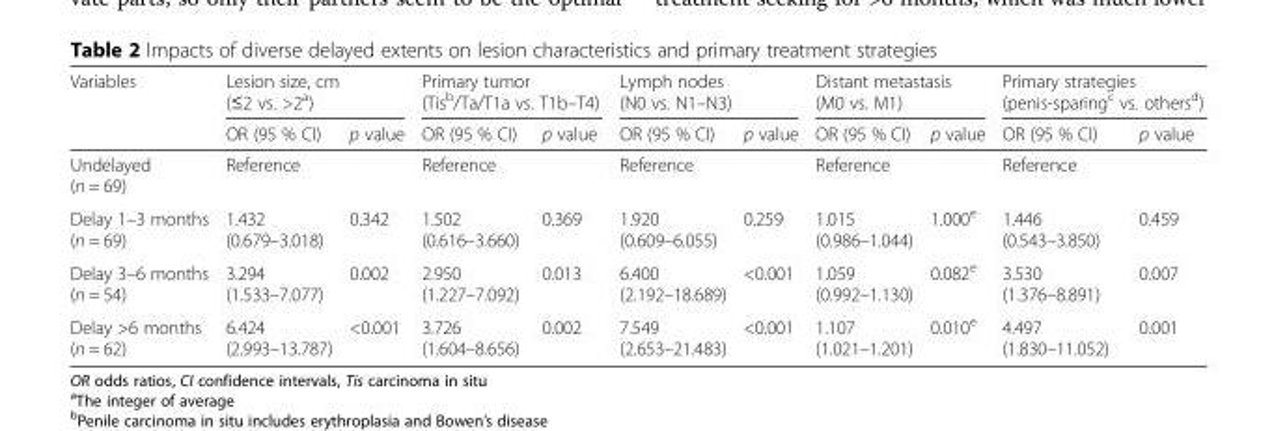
<table><thead><tr><td rowspan="2">Variables</td><td colspan="2">Lesion size, cm (≤2 vs. &gt;2<sup>a</sup>)</td><td colspan="2">Primary tumor (Tis<sup>b</sup>/Ta/T1a vs. T1b–T4)</td><td colspan="2">Lymph nodes (N0 vs. N1–N3)</td><td colspan="2">Distant metastasis (M0 vs. M1)</td><td colspan="2">Primary strategies (penis-sparing<sup>c</sup> vs. others<sup>d</sup>)</td></tr><tr><td>OR (95 % CI)</td><td>p value</td><td>OR (95 % CI)</td><td>p value</td><td>OR (95 % CI)</td><td>p value</td><td>OR (95 % CI)</td><td>p value</td><td>OR (95 % CI)</td><td>p value</td></tr></thead><tbody><tr><td>Undelayed (n = 69)</td><td>Reference</td><td></td><td>Reference</td><td></td><td>Reference</td><td></td><td>Reference</td><td></td><td>Reference</td><td></td></tr><tr><td>Delay 1–3 months (n = 69)</td><td>1.432 (0.679–3.018)</td><td>0.342</td><td>1.502 (0.616–3.660)</td><td>0.369</td><td>1.920 (0.609–6.055)</td><td>0.259</td><td>1.015 (0.986–1.044)</td><td>1.000<sup>e</sup></td><td>1.446 (0.543–3.850)</td><td>0.459</td></tr><tr><td>Delay 3–6 months (n = 54)</td><td>3.294 (1.533–7.077)</td><td>0.002</td><td>2.950 (1.227–7.092)</td><td>0.013</td><td>6.400 (2.192–18.689)</td><td>&lt;0.001</td><td>1.059 (0.992–1.130)</td><td>0.082<sup>e</sup></td><td>3.530 (1.376–8.891)</td><td>0.007</td></tr><tr><td>Delay &gt;6 months (n = 62)</td><td>6.424 (2.993–13.787)</td><td>&lt;0.001</td><td>3.726 (1.604–8.656)</td><td>0.002</td><td>7.549 (2.653–21.483)</td><td>&lt;0.001</td><td>1.107 (1.021–1.201)</td><td>0.010<sup>e</sup></td><td>4.497 (1.830–11.052)</td><td>0.001</td></tr></tbody></table>